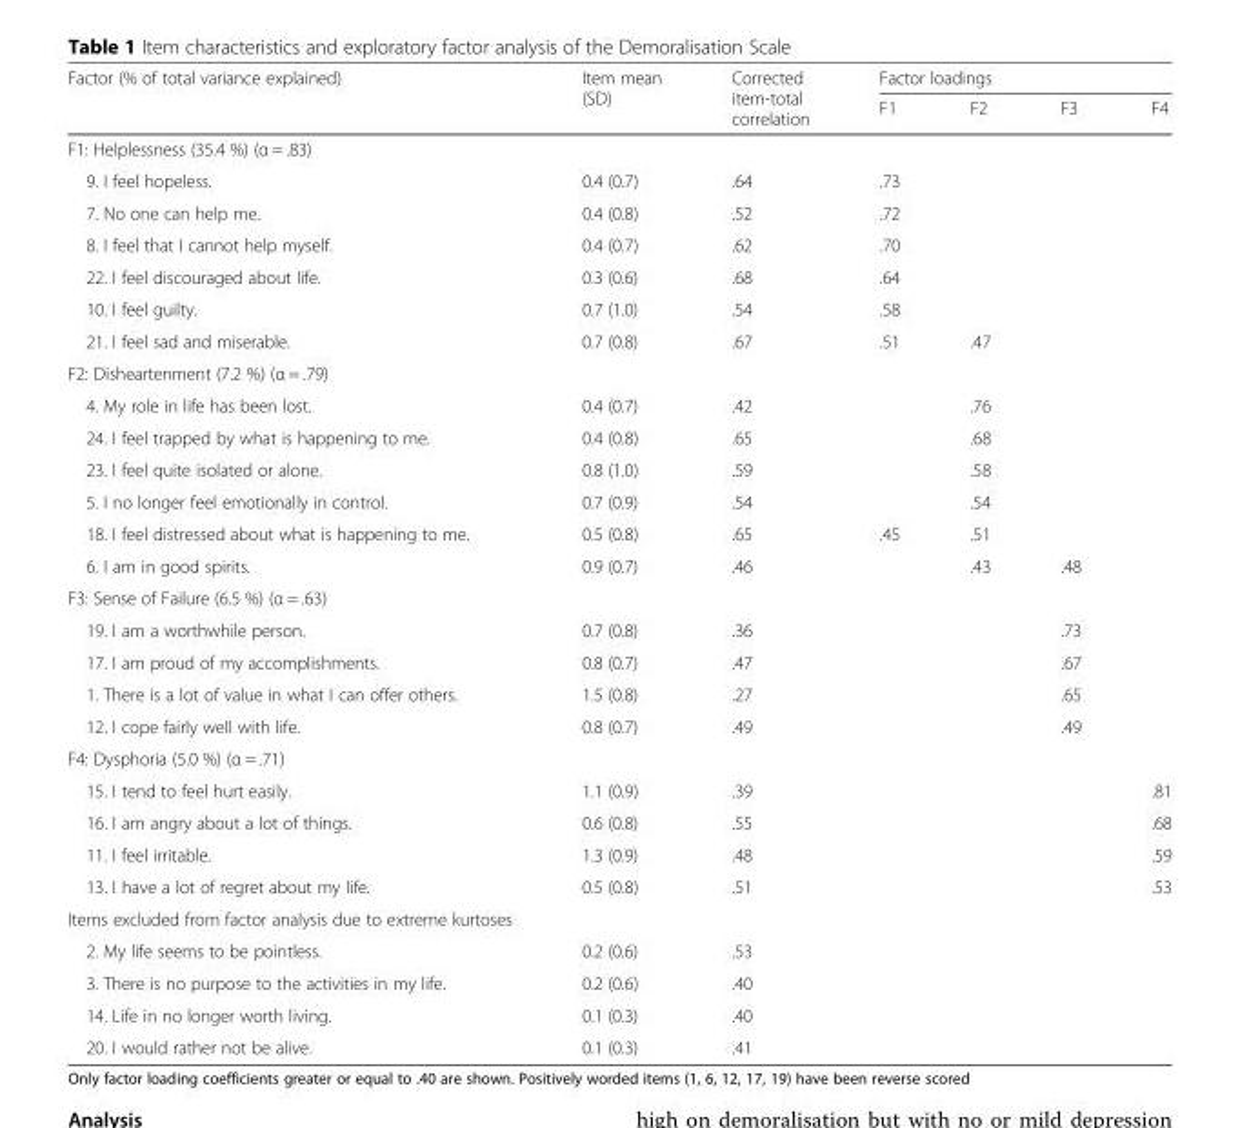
<table><thead><tr><td rowspan="2">Factor (% of total variance explained)</td><td rowspan="2">Item mean (SD)</td><td rowspan="2">Corrected item-total correlation</td><td colspan="4">Factor loadings</td></tr><tr><td>F1</td><td>F2</td><td>F3</td><td>F4</td></tr></thead><tbody><tr><td colspan="7">F1: Helplessness (35.4 %) (α = .83)</td></tr><tr><td>9. I feel hopeless.</td><td>0.4 (0.7)</td><td>.64</td><td>.73</td><td></td><td></td><td></td></tr><tr><td>7. No one can help me.</td><td>0.4 (0.8)</td><td>.52</td><td>.72</td><td></td><td></td><td></td></tr><tr><td>8. I feel that I cannot help myself.</td><td>0.4 (0.7)</td><td>.62</td><td>.70</td><td></td><td></td><td></td></tr><tr><td>22. I feel discouraged about life.</td><td>0.3 (0.6)</td><td>.68</td><td>.64</td><td></td><td></td><td></td></tr><tr><td>10. I feel guilty.</td><td>0.7 (1.0)</td><td>.54</td><td>.58</td><td></td><td></td><td></td></tr><tr><td>21. I feel sad and miserable.</td><td>0.7 (0.8)</td><td>.67</td><td>.51</td><td>.47</td><td></td><td></td></tr><tr><td colspan="7">F2: Disheartenment (7.2 %) (α = .79)</td></tr><tr><td>4. My role in life has been lost.</td><td>0.4 (0.7)</td><td>.42</td><td></td><td>.76</td><td></td><td></td></tr><tr><td>24. I feel trapped by what is happening to me.</td><td>0.4 (0.8)</td><td>.65</td><td></td><td>.68</td><td></td><td></td></tr><tr><td>23. I feel quite isolated or alone.</td><td>0.8 (1.0)</td><td>.59</td><td></td><td>.58</td><td></td><td></td></tr><tr><td>5. I no longer feel emotionally in control.</td><td>0.7 (0.9)</td><td>.54</td><td></td><td>.54</td><td></td><td></td></tr><tr><td>18. I feel distressed about what is happening to me.</td><td>0.5 (0.8)</td><td>.65</td><td>.45</td><td>.51</td><td></td><td></td></tr><tr><td>6. I am in good spirits.</td><td>0.9 (0.7)</td><td>.46</td><td></td><td>.43</td><td>.48</td><td></td></tr><tr><td colspan="7">F3: Sense of Failure (6.5 %) (α = .63)</td></tr><tr><td>19. I am a worthwhile person.</td><td>0.7 (0.8)</td><td>.36</td><td></td><td></td><td>.73</td><td></td></tr><tr><td>17. I am proud of my accomplishments.</td><td>0.8 (0.7)</td><td>.47</td><td></td><td></td><td>.67</td><td></td></tr><tr><td>1. There is a lot of value in what I can offer others.</td><td>1.5 (0.8)</td><td>.27</td><td></td><td></td><td>.65</td><td></td></tr><tr><td>12. I cope fairly well with life.</td><td>0.8 (0.7)</td><td>.49</td><td></td><td></td><td>.49</td><td></td></tr><tr><td colspan="7">F4: Dysphoria (5.0 %) (α = .71)</td></tr><tr><td>15. I tend to feel hurt easily.</td><td>1.1 (0.9)</td><td>.39</td><td></td><td></td><td></td><td>.81</td></tr><tr><td>16. I am angry about a lot of things.</td><td>0.6 (0.8)</td><td>.55</td><td></td><td></td><td></td><td>.68</td></tr><tr><td>11. I feel irritable.</td><td>1.3 (0.9)</td><td>.48</td><td></td><td></td><td></td><td>.59</td></tr><tr><td>13. I have a lot of regret about my life.</td><td>0.5 (0.8)</td><td>.51</td><td></td><td></td><td></td><td>.53</td></tr><tr><td colspan="7">Items excluded from factor analysis due to extreme kurtoses</td></tr><tr><td>2. My life seems to be pointless.</td><td>0.2 (0.6)</td><td>.53</td><td></td><td></td><td></td><td></td></tr><tr><td>3. There is no purpose to the activities in my life.</td><td>0.2 (0.6)</td><td>.40</td><td></td><td></td><td></td><td></td></tr><tr><td>14. Life in no longer worth living.</td><td>0.1 (0.3)</td><td>.40</td><td></td><td></td><td></td><td></td></tr><tr><td>20. I would rather not be alive.</td><td>0.1 (0.3)</td><td>.41</td><td></td><td></td><td></td><td></td></tr></tbody></table>